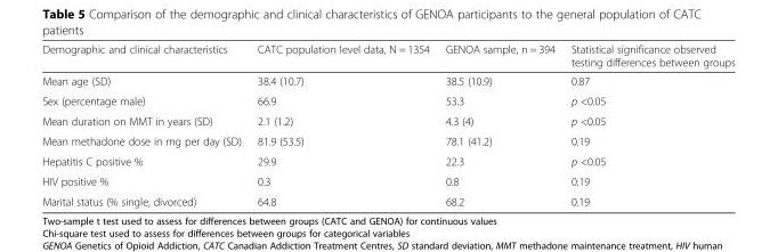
<table><thead><tr><td>Demographic and clinical characteristics</td><td>CATC population level data, N = 1354</td><td>GENOA sample, n = 394</td><td>Statistical significance observed testing differences between groups</td></tr></thead><tbody><tr><td>Mean age (SD)</td><td>38.4 (10.7)</td><td>38.5 (10.9)</td><td>0.87</td></tr><tr><td>Sex (percentage male)</td><td>66.9</td><td>53.3</td><td>p &lt;0.05</td></tr><tr><td>Mean duration on MMT in years (SD)</td><td>2.1 (1.2)</td><td>4.3 (4)</td><td>p &lt;0.05</td></tr><tr><td>Mean methadone dose in mg per day (SD)</td><td>81.9 (53.5)</td><td>78.1 (41.2)</td><td>0.19</td></tr><tr><td>Hepatitis C positive %</td><td>29.9</td><td>22.3</td><td>p &lt;0.05</td></tr><tr><td>HIV positive %</td><td>0.3</td><td>0.8</td><td>0.19</td></tr><tr><td>Marital status (% single, divorced)</td><td>64.8</td><td>68.2</td><td>0.19</td></tr></tbody></table>